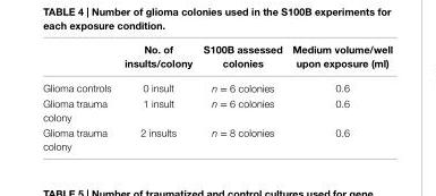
<table><thead><tr><td></td><td>no. of insults/colony</td><td>s100B assessed colonies</td><td>Medium volume/well upon exposure (ml)</td></tr></thead><tbody><tr><td>Glioma controls</td><td>0 insult</td><td>n = 6 colonies</td><td>0.6</td></tr><tr><td>Glioma trauma colony</td><td>1 insult</td><td>n = 6 colonies</td><td>0.6</td></tr><tr><td>Glioma trauma colony</td><td>2 insults</td><td>n = 8 colonies</td><td>0.6</td></tr></tbody></table>